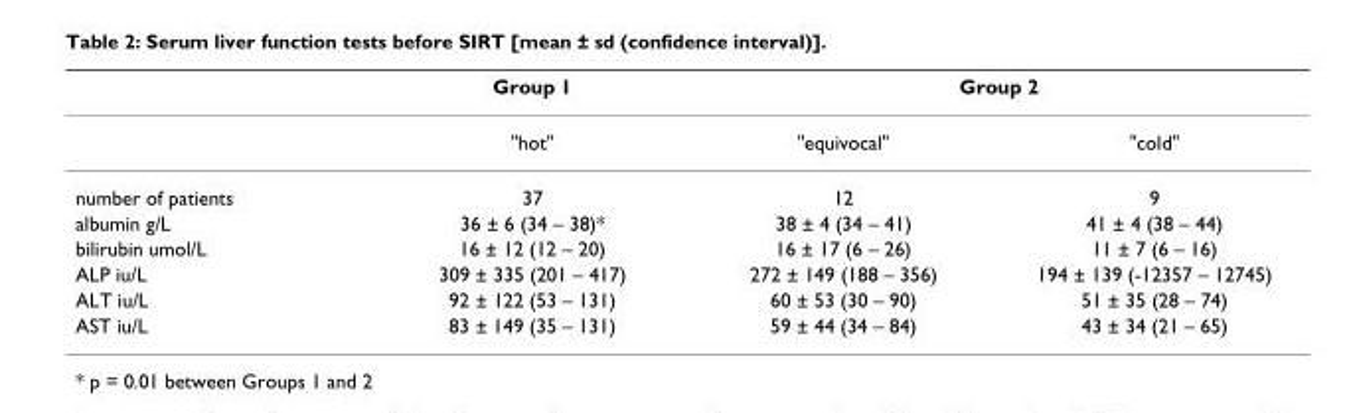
<table><thead><tr><td rowspan="2"></td><td rowspan="2">Group 1 &quot;hot&quot;</td><td colspan="2">Group 2</td></tr><tr><td>&quot;equivocal&quot;</td><td>&quot;cold&quot;</td></tr></thead><tbody><tr><td>number of patients</td><td>37</td><td>12</td><td>9</td></tr><tr><td>albumin g/L</td><td>36 ± 6 (34 – 38)*</td><td>38 ± 4 (34 – 41)</td><td>41 ± 4 (38 – 44)</td></tr><tr><td>bilirubin umol/L</td><td>16 ± 12 (12 – 20)</td><td>16 ± 17 (6 – 26)</td><td>11 ± 7 (6 – 16)</td></tr><tr><td>ALP iu/L</td><td>309 ± 335 (201 – 417)</td><td>272 ± 149 (188 – 356)</td><td>194 ± 139 (-12357 – 12745)</td></tr><tr><td>ALT iu/L</td><td>92 ± 122 (53 – 131)</td><td>60 ± 53 (30 – 90)</td><td>51 ± 35 (28 – 74)</td></tr><tr><td>AST iu/L</td><td>83 ± 149 (35 – 131)</td><td>59 ± 44 (34 – 84)</td><td>43 ± 34 (21 – 65)</td></tr></tbody></table>